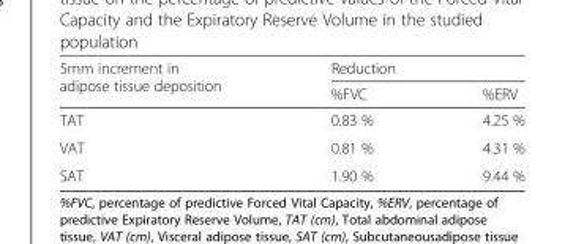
<table><thead><tr><td rowspan="2">5mm increment in adipose tissue deposition</td><td colspan="2">Reduction</td></tr><tr><td>%FVC</td><td>%ERV</td></tr></thead><tbody><tr><td>TAT</td><td>0.83 %</td><td>4.25 %</td></tr><tr><td>VAT</td><td>0.81 %</td><td>4.31 %</td></tr><tr><td>SAT</td><td>1.90 %</td><td>9.44 %</td></tr></tbody></table>